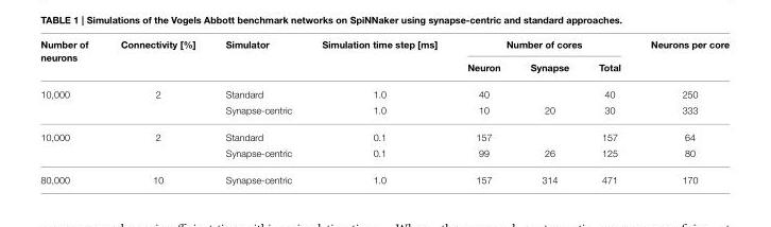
<table><thead><tr><td rowspan="2">Number of neurons</td><td rowspan="2">Connectivity [%]</td><td rowspan="2">Simulator</td><td rowspan="2">Simulation time step [ms]</td><td colspan="3">Number of cores</td><td rowspan="2">Neurons per core</td></tr><tr><td>Neuron</td><td>Synapse</td><td>Total</td></tr></thead><tbody><tr><td rowspan="2">10,000</td><td>2</td><td>Standard</td><td>1.0</td><td>40</td><td></td><td>40</td><td>250</td></tr><tr><td></td><td>Synapse-centric</td><td>1.0</td><td>10</td><td>20</td><td>30</td><td>333</td></tr><tr><td rowspan="2">10,000</td><td>2</td><td>Standard</td><td>0.1</td><td>157</td><td></td><td>157</td><td>64</td></tr><tr><td></td><td>Synapse-centric</td><td>0.1</td><td>99</td><td>26</td><td>125</td><td>80</td></tr><tr><td>80,000</td><td>10</td><td>Synapse-centric</td><td>1.0</td><td>157</td><td>314</td><td>471</td><td>170</td></tr></tbody></table>